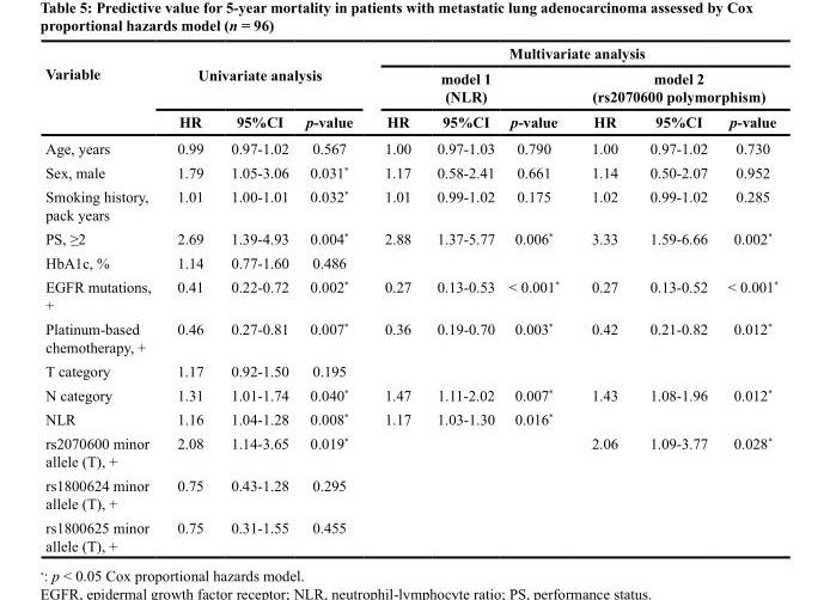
<table><thead><tr><td rowspan="3">Variable</td><td rowspan="2" colspan="3">Univariate analysis</td><td colspan="6">Multivariate analysis</td></tr><tr><td colspan="3">model 1 (NLR)</td><td colspan="3">model 2 (rs2070600 polymorphism)</td></tr><tr><td>HR</td><td>95%CI</td><td>p-value</td><td>HR</td><td>95%CI</td><td>p-value</td><td>HR</td><td>95%CI</td><td>p-value</td></tr></thead><tbody><tr><td>Age, years</td><td>0.99</td><td>0.97-1.02</td><td>0.567</td><td>1.00</td><td>0.97-1.03</td><td>0.790</td><td>1.00</td><td>0.97-1.02</td><td>0.730</td></tr><tr><td>Sex, male</td><td>1.79</td><td>1.05-3.06</td><td>0.031*</td><td>1.17</td><td>0.58-2.41</td><td>0.661</td><td>1.14</td><td>0.50-2.07</td><td>0.952</td></tr><tr><td>Smoking history, pack years</td><td>1.01</td><td>1.00-1.01</td><td>0.032*</td><td>1.01</td><td>0.99-1.02</td><td>0.175</td><td>1.02</td><td>0.99-1.02</td><td>0.285</td></tr><tr><td>PS, ≥2</td><td>2.69</td><td>1.39-4.93</td><td>0.004*</td><td>2.88</td><td>1.37-5.77</td><td>0.006*</td><td>3.33</td><td>1.59-6.66</td><td>0.002*</td></tr><tr><td>HbA1c, %</td><td>1.14</td><td>0.77-1.60</td><td>0.486</td><td></td><td></td><td></td><td></td><td></td><td></td></tr><tr><td>EGFR mutations, +</td><td>0.41</td><td>0.22-0.72</td><td>0.002*</td><td>0.27</td><td>0.13-0.53</td><td>&lt; 0.001*</td><td>0.27</td><td>0.13-0.52</td><td>&lt; 0.001*</td></tr><tr><td>Platinum-based chemotherapy, +</td><td>0.46</td><td>0.27-0.81</td><td>0.007*</td><td>0.36</td><td>0.19-0.70</td><td>0.003*</td><td>0.42</td><td>0.21-0.82</td><td>0.012*</td></tr><tr><td>T category</td><td>1.17</td><td>0.92-1.50</td><td>0.195</td><td></td><td></td><td></td><td></td><td></td><td></td></tr><tr><td>N category</td><td>1.31</td><td>1.01-1.74</td><td>0.040*</td><td>1.47</td><td>1.11-2.02</td><td>0.007*</td><td>1.43</td><td>1.08-1.96</td><td>0.012*</td></tr><tr><td>NLR</td><td>1.16</td><td>1.04-1.28</td><td>0.008*</td><td>1.17</td><td>1.03-1.30</td><td>0.016*</td><td></td><td></td><td></td></tr><tr><td>rs2070600 minor allele (T), +</td><td>2.08</td><td>1.14-3.65</td><td>0.019*</td><td></td><td></td><td></td><td>2.06</td><td>1.09-3.77</td><td>0.028*</td></tr><tr><td>rs1800624 minor allele (T), +</td><td>0.75</td><td>0.43-1.28</td><td>0.295</td><td></td><td></td><td></td><td></td><td></td><td></td></tr><tr><td>rs1800625 minor allele (T), +</td><td>0.75</td><td>0.31-1.55</td><td>0.455</td><td></td><td></td><td></td><td></td><td></td><td></td></tr></tbody></table>